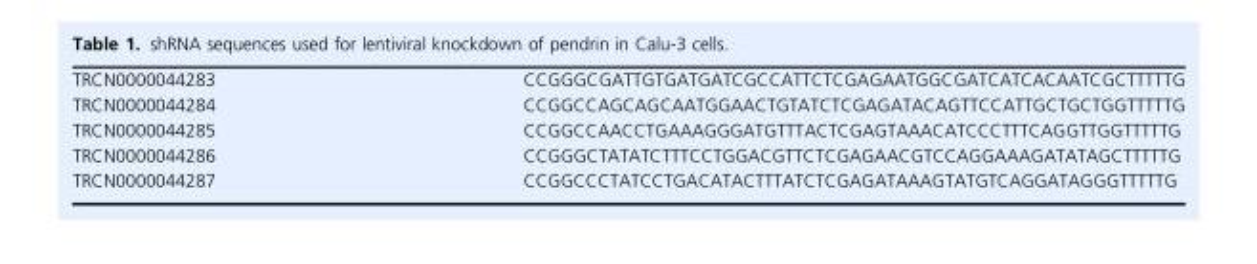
<table><tbody><tr><td>TRCN0000044283</td><td>CCGGGCGATTGTGATGATCGCCATTCTCGAGAATGGCGATCATCACAATCGCTTTTTG</td></tr><tr><td>TRCN0000044284</td><td>CCGGCCAGCAGCAATGGAACTGTATCTCGAGATACAGTTCCATTGCTGCTGGTTTTTG</td></tr><tr><td>TRCN0000044285</td><td>CCGGCCAACCTGAAAGGGATGTTTACTCGAGTAAACATCCCTTTCAGGTTGGTTTTTG</td></tr><tr><td>TRCN0000044286</td><td>CCGGGCTATATCTTTCCTGGACGTTCTCGAGAACGTCCAGGAAAGATATAGCTTTTTG</td></tr><tr><td>TRCN0000044287</td><td>CCGGCCCTATCCTGACATACTTTATCTCGAGATAAAGTATGTCAGGATAGGGTTTTTG</td></tr></tbody></table>